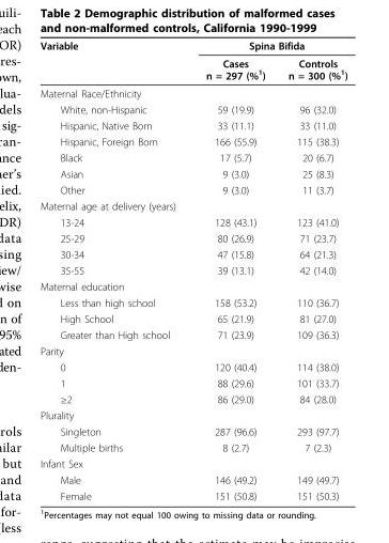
<table><thead><tr><td rowspan="2">Variable</td><td colspan="2">Spina Bifida</td></tr><tr><td>Cases n = 297 (%<sup>1</sup>)</td><td>Controls n = 300 (%<sup>1</sup>)</td></tr></thead><tbody><tr><td colspan="3">Maternal Race/Ethnicity</td></tr><tr><td>White, non-Hispanic</td><td>59 (19.9)</td><td>96 (32.0)</td></tr><tr><td>Hispanic, Native Born</td><td>33 (11.1)</td><td>33 (11.0)</td></tr><tr><td>Hispanic, Foreign Born</td><td>166 (55.9)</td><td>115 (38.3)</td></tr><tr><td>Black</td><td>17 (5.7)</td><td>20 (6.7)</td></tr><tr><td>Asian</td><td>9 (3.0)</td><td>25 (8.3)</td></tr><tr><td>Other</td><td>9 (3.0)</td><td>11 (3.7)</td></tr><tr><td colspan="3">Maternal age at delivery (years)</td></tr><tr><td>13-24</td><td>128 (43.1)</td><td>123 (41.0)</td></tr><tr><td>25-29</td><td>80 (26.9)</td><td>71 (23.7)</td></tr><tr><td>30-34</td><td>47 (15.8)</td><td>64 (21.3)</td></tr><tr><td>35-55</td><td>39 (13.1)</td><td>42 (14.0)</td></tr><tr><td colspan="3">Maternal education</td></tr><tr><td>Less than high school</td><td>158 (53.2)</td><td>110 (36.7)</td></tr><tr><td>High School</td><td>65 (21.9)</td><td>81 (27.0)</td></tr><tr><td>Greater than High school</td><td>71 (23.9)</td><td>109 (36.3)</td></tr><tr><td colspan="3">Parity</td></tr><tr><td>0</td><td>120 (40.4)</td><td>114 (38.0)</td></tr><tr><td>1</td><td>88 (29.6)</td><td>101 (33.7)</td></tr><tr><td>≥2</td><td>86 (29.0)</td><td>84 (28.0)</td></tr><tr><td colspan="3">Plurality</td></tr><tr><td>Singleton</td><td>287 (96.6)</td><td>293 (97.7)</td></tr><tr><td>Multiple births</td><td>8 (2.7)</td><td>7 (2.3)</td></tr><tr><td colspan="3">Infant Sex</td></tr><tr><td>Male</td><td>146 (49.2)</td><td>149 (49.7)</td></tr><tr><td>Female</td><td>151 (50.8)</td><td>151 (50.3)</td></tr></tbody></table>